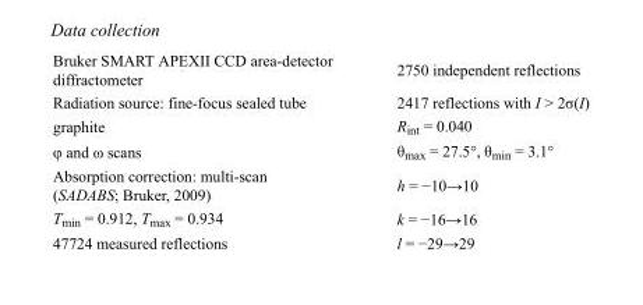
<table><tbody><tr><td>Bruker SMART APEXII CCD area-detector diffractometer</td><td>2750 independent reflections</td></tr><tr><td>Radiation source: fine-focus sealed tube</td><td>2417 reflections with I &gt; 2σ(I)</td></tr><tr><td>graphite</td><td>R<sub>int</sub> = 0.040</td></tr><tr><td>φ and ω scans</td><td>θ<sub>max</sub> = 27.5°, θ<sub>min</sub> = 3.1°</td></tr><tr><td>Absorption correction: multi-scan (SADABS; Bruker, 2009)</td><td>h = −10→10</td></tr><tr><td>T<sub>min</sub> = 0.912, T<sub>max</sub> = 0.934</td><td>k = −16→16</td></tr><tr><td>47724 measured reflections</td><td>l = −29→29</td></tr></tbody></table>